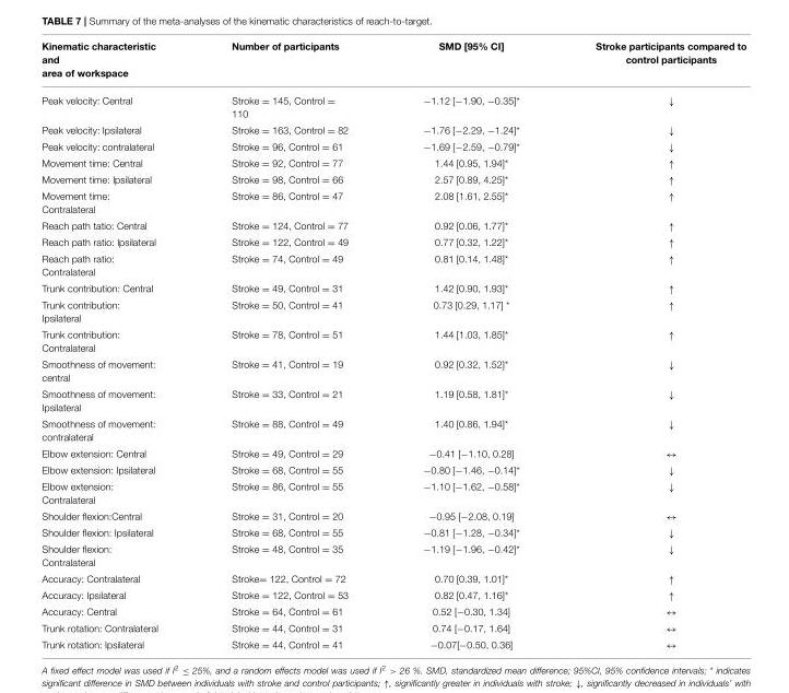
<table><thead><tr><td>Kinematic characteristic and area of workspace</td><td>Number of participants</td><td>SMD [95% CI]</td><td>Stroke participants compared to control participants</td></tr></thead><tbody><tr><td>Peak velocity: Central</td><td>Stroke = 145, Control = 110</td><td>−1.12 [−1.90, −0.35]*</td><td>↓</td></tr><tr><td>Peak velocity: Ipsilateral</td><td>Stroke = 163, Control = 82</td><td>−1.76 [−2.29, −1.24]*</td><td>↓</td></tr><tr><td>Peak velocity: contralateral</td><td>Stroke = 96, Control = 61</td><td>−1.69 [−2.59, −0.79]*</td><td>↓</td></tr><tr><td>Movement time: Central</td><td>Stroke = 92, Control = 77</td><td>1.44 [0.95, 1.94]*</td><td>↑</td></tr><tr><td>Movement time: Ipsilateral</td><td>Stroke = 98, Control = 66</td><td>2.57 [0.89, 4.25]*</td><td>↑</td></tr><tr><td>Movement time: Contralateral</td><td>Stroke = 86, Control = 47</td><td>2.08 [1.61, 2.55]*</td><td>↑</td></tr><tr><td>Reach path tatio: Central</td><td>Stroke = 124, Control = 77</td><td>0.92 [0.06, 1.77]*</td><td>↑</td></tr><tr><td>Reach path ratio: Ipsilateral</td><td>Stroke = 122, Control = 49</td><td>0.77 [0.32, 1.22]*</td><td>↑</td></tr><tr><td>Reach path ratio: Contralateral</td><td>Stroke = 74, Control = 49</td><td>0.81 [0.14, 1.48]*</td><td>↑</td></tr><tr><td>Trunk contribution: Central</td><td>Stroke = 49, Control = 31</td><td>1.42 [0.90, 1.93]*</td><td>↑</td></tr><tr><td>Trunk contribution: Ipsilateral</td><td>Stroke = 50, Control = 41</td><td>0.73 [0.29, 1.17] *</td><td>↑</td></tr><tr><td>Trunk contribution: Contralateral</td><td>Stroke = 78, Control = 51</td><td>1.44 [1.03, 1.85]*</td><td>↑</td></tr><tr><td>Smoothness of movement: central</td><td>Stroke = 41, Control = 19</td><td>0.92 [0.32, 1.52]*</td><td>↓</td></tr><tr><td>Smoothness of movement: Ipsilateral</td><td>Stroke = 33, Control = 21</td><td>1.19 [0.58, 1.81]*</td><td>↓</td></tr><tr><td>Smoothness of movement: contralateral</td><td>Stroke = 88, Control = 49</td><td>1.40 [0.86, 1.94]*</td><td>↓</td></tr><tr><td>Elbow extension: Central</td><td>Stroke = 49, Control = 29</td><td>−0.41 [−1.10, 0.28]</td><td>↔</td></tr><tr><td>Elbow extension: Ipsilateral</td><td>Stroke = 68, Control = 55</td><td>−0.80 [−1.46, −0.14]*</td><td>↓</td></tr><tr><td>Elbow extension: Contralateral</td><td>Stroke = 86, Control = 55</td><td>−1.10 [−1.62, −0.58]*</td><td>↓</td></tr><tr><td>Shoulder flexion:Central</td><td>Stroke = 31, Control = 20</td><td>−0.95 [−2.08, 0.19]</td><td>↔</td></tr><tr><td>Shoulder flexion: Ipsilateral</td><td>Stroke = 68, Control = 55</td><td>−0.81 [−1.28, −0.34]*</td><td>↓</td></tr><tr><td>Shoulder flexion: Contralateral</td><td>Stroke = 48, Control = 35</td><td>−1.19 [−1.96, −0.42]*</td><td>↓</td></tr><tr><td>Accuracy: Contralateral</td><td>Stroke= 122, Control = 72</td><td>0.70 [0.39, 1.01]*</td><td>↑</td></tr><tr><td>Accuracy: Ipsilateral</td><td>Stroke = 122, Control = 53</td><td>0.82 [0.47, 1.16]*</td><td>↑</td></tr><tr><td>Accuracy: Central</td><td>Stroke = 64, Control = 61</td><td>0.52 [−0.30, 1.34]</td><td>↔</td></tr><tr><td>Trunk rotation: Contralateral</td><td>Stroke = 44, Control = 31</td><td>0.74 [−0.17, 1.64]</td><td>↔</td></tr><tr><td>Trunk rotation: Ipsilateral</td><td>Stroke = 44, Control = 41</td><td>−0.07[−0.50, 0.36]</td><td>↔</td></tr></tbody></table>